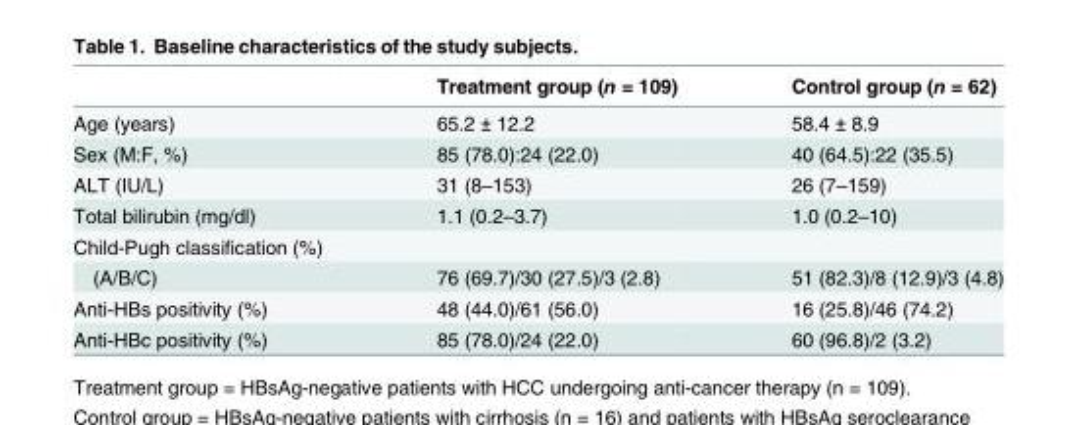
<table><thead><tr><td></td><td>Treatment group (n = 109)</td><td>Control group (n = 62)</td></tr></thead><tbody><tr><td>Age (years)</td><td>65.2 ± 12.2</td><td>58.4 ± 8.9</td></tr><tr><td>Sex (M:F, %)</td><td>85 (78.0):24 (22.0)</td><td>40 (64.5):22 (35.5)</td></tr><tr><td>ALT (IU/L)</td><td>31 (8–153)</td><td>26 (7–159)</td></tr><tr><td>Total bilirubin (mg/dl)</td><td>1.1 (0.2–3.7)</td><td>1.0 (0.2–10)</td></tr><tr><td colspan="3">Child-Pugh classification (%)</td></tr><tr><td>(A/B/C)</td><td>76 (69.7)/30 (27.5)/3 (2.8)</td><td>51 (82.3)/8 (12.9)/3 (4.8)</td></tr><tr><td>Anti-HBs positivity (%)</td><td>48 (44.0)/61 (56.0)</td><td>16 (25.8)/46 (74.2)</td></tr><tr><td>Anti-HBc positivity (%)</td><td>85 (78.0)/24 (22.0)</td><td>60 (96.8)/2 (3.2)</td></tr></tbody></table>